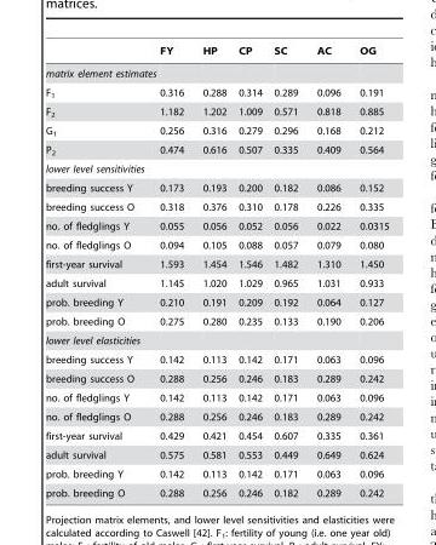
<table><thead><tr><td></td><td>FY</td><td>HP</td><td>CP</td><td>SC</td><td>AC</td><td>OG</td></tr></thead><tbody><tr><td colspan="7">matrix element estimates</td></tr><tr><td>F<sub>1</sub></td><td>0.316</td><td>0.288</td><td>0.314</td><td>0.289</td><td>0.096</td><td>0.191</td></tr><tr><td>F<sub>2</sub></td><td>1.182</td><td>1.202</td><td>1.009</td><td>0.571</td><td>0.818</td><td>0.885</td></tr><tr><td>G<sub>1</sub></td><td>0.256</td><td>0.316</td><td>0.279</td><td>0.296</td><td>0.168</td><td>0.212</td></tr><tr><td>P<sub>2</sub></td><td>0.474</td><td>0.616</td><td>0.507</td><td>0.335</td><td>0.409</td><td>0.564</td></tr><tr><td colspan="7">lower level sensitivities</td></tr><tr><td>breeding success Y</td><td>0.173</td><td>0.193</td><td>0.200</td><td>0.182</td><td>0.086</td><td>0.152</td></tr><tr><td>breeding success O</td><td>0.318</td><td>0.376</td><td>0.310</td><td>0.178</td><td>0.226</td><td>0.335</td></tr><tr><td>no. of fledglings Y</td><td>0.055</td><td>0.056</td><td>0.052</td><td>0.056</td><td>0.022</td><td>0.0315</td></tr><tr><td>no. of fledglings O</td><td>0.094</td><td>0.105</td><td>0.088</td><td>0.057</td><td>0.079</td><td>0.080</td></tr><tr><td>first-year survival</td><td>1.593</td><td>1.454</td><td>1.546</td><td>1.482</td><td>1.310</td><td>1.450</td></tr><tr><td>adult survival</td><td>1.145</td><td>1.020</td><td>1.029</td><td>0.965</td><td>1.031</td><td>0.933</td></tr><tr><td>prob. breeding Y</td><td>0.210</td><td>0.191</td><td>0.209</td><td>0.192</td><td>0.064</td><td>0.127</td></tr><tr><td>prob. breeding O</td><td>0.275</td><td>0.280</td><td>0.235</td><td>0.133</td><td>0.190</td><td>0.206</td></tr><tr><td colspan="7">lower level elasticities</td></tr><tr><td>breeding success Y</td><td>0.142</td><td>0.113</td><td>0.142</td><td>0.171</td><td>0.063</td><td>0.096</td></tr><tr><td>breeding success O</td><td>0.288</td><td>0.256</td><td>0.246</td><td>0.183</td><td>0.289</td><td>0.242</td></tr><tr><td>no. of fledglings Y</td><td>0.142</td><td>0.113</td><td>0.142</td><td>0.171</td><td>0.063</td><td>0.096</td></tr><tr><td>no. of fledglings O</td><td>0.288</td><td>0.256</td><td>0.246</td><td>0.183</td><td>0.289</td><td>0.242</td></tr><tr><td>first-year survival</td><td>0.429</td><td>0.421</td><td>0.454</td><td>0.607</td><td>0.335</td><td>0.361</td></tr><tr><td>adult survival</td><td>0.575</td><td>0.581</td><td>0.553</td><td>0.449</td><td>0.649</td><td>0.624</td></tr><tr><td>prob. breeding Y</td><td>0.142</td><td>0.113</td><td>0.142</td><td>0.171</td><td>0.063</td><td>0.096</td></tr><tr><td>prob. breeding O</td><td>0.288</td><td>0.256</td><td>0.246</td><td>0.182</td><td>0.289</td><td>0.242</td></tr></tbody></table>